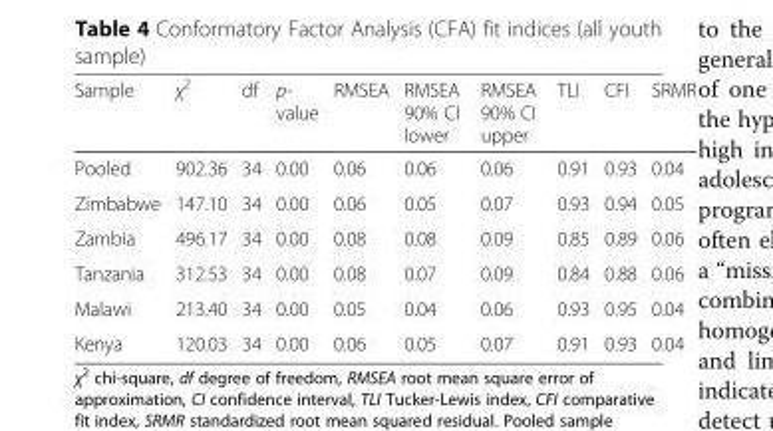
<table><thead><tr><td>Sample</td><td>χ<sup>2</sup></td><td>df</td><td>p- value</td><td>RMSEA</td><td>RMSEA 90% CI lower</td><td>RMSEA 90% CI upper</td><td>TLI</td><td>CFI</td><td>SRMR</td></tr></thead><tbody><tr><td>Pooled</td><td>902.36</td><td>34</td><td>0.00</td><td>0.06</td><td>0.06</td><td>0.06</td><td>0.91</td><td>0.93</td><td>0.04</td></tr><tr><td>Zimbabwe</td><td>147.10</td><td>34</td><td>0.00</td><td>0.06</td><td>0.05</td><td>0.07</td><td>0.93</td><td>0.94</td><td>0.05</td></tr><tr><td>Zambia</td><td>496.17</td><td>34</td><td>0.00</td><td>0.08</td><td>0.08</td><td>0.09</td><td>0.85</td><td>0.89</td><td>0.06</td></tr><tr><td>Tanzania</td><td>312.53</td><td>34</td><td>0.00</td><td>0.08</td><td>0.07</td><td>0.09</td><td>0.84</td><td>0.88</td><td>0.06</td></tr><tr><td>Malawi</td><td>213.40</td><td>34</td><td>0.00</td><td>0.05</td><td>0.04</td><td>0.06</td><td>0.93</td><td>0.95</td><td>0.04</td></tr><tr><td>Kenya</td><td>120.03</td><td>34</td><td>0.00</td><td>0.06</td><td>0.05</td><td>0.07</td><td>0.91</td><td>0.93</td><td>0.04</td></tr></tbody></table>